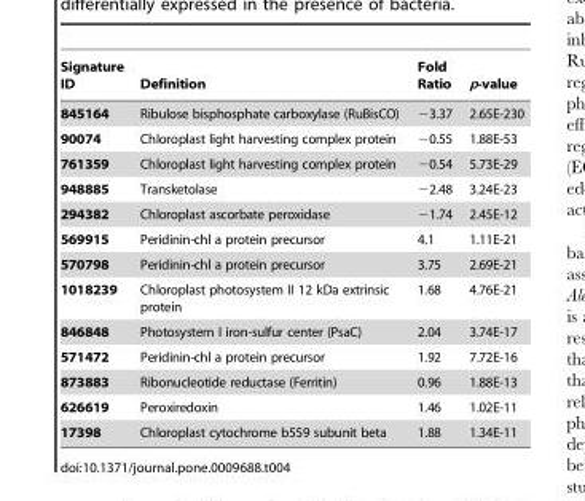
<table><thead><tr><td>Signature ID</td><td>Definition</td><td>Fold Ratio</td><td>p-value</td></tr></thead><tbody><tr><td>845164</td><td>Ribulose bisphosphate carboxylase (RuBisCO)</td><td>−3.37</td><td>2.65E-230</td></tr><tr><td>90074</td><td>Chloroplast light harvesting complex protein</td><td>−0.55</td><td>1.88E-53</td></tr><tr><td>761359</td><td>Chloroplast light harvesting complex protein</td><td>−0.54</td><td>5.73E-29</td></tr><tr><td>948885</td><td>Transketolase</td><td>−2.48</td><td>3.24E-23</td></tr><tr><td>294382</td><td>Chloroplast ascorbate peroxidase</td><td>−1.74</td><td>2.45E-12</td></tr><tr><td>569915</td><td>Peridinin-chl a protein precursor</td><td>4.1</td><td>1.11E-21</td></tr><tr><td>570798</td><td>Peridinin-chl a protein precursor</td><td>3.75</td><td>2.69E-21</td></tr><tr><td>1018239</td><td>Chloroplast photosystem II 12 kDa extrinsic protein</td><td>1.68</td><td>4.76E-21</td></tr><tr><td>846848</td><td>Photosystem I iron-sulfur center (PsaC)</td><td>2.04</td><td>3.74E-17</td></tr><tr><td>571472</td><td>Peridinin-chl a protein precursor</td><td>1.92</td><td>7.72E-16</td></tr><tr><td>873883</td><td>Ribonucleotide reductase (Ferritin)</td><td>0.96</td><td>1.88E-13</td></tr><tr><td>626619</td><td>Peroxiredoxin</td><td>1.46</td><td>1.02E-11</td></tr><tr><td>17398</td><td>Chloroplast cytochrome b559 subunit beta</td><td>1.88</td><td>1.34E-11</td></tr></tbody></table>